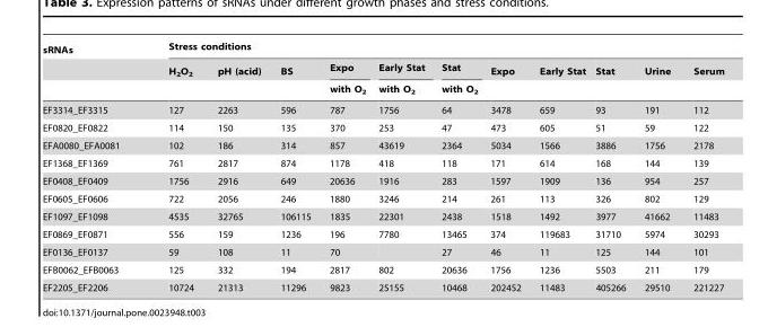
<table><thead><tr><td rowspan="3">sRNAs</td><td colspan="11">Stress conditions</td></tr><tr><td rowspan="2">H<sub>2</sub>O<sub>2</sub></td><td rowspan="2">pH (acid)</td><td rowspan="2">BS</td><td rowspan="2">Expo with O<sub>2</sub></td><td rowspan="2">Early Stat with O<sub>2</sub></td><td rowspan="2">Stat with O<sub>2</sub></td><td rowspan="2">Expo</td><td rowspan="2">Early Stat</td><td rowspan="2">Stat</td><td rowspan="2">Urine</td><td rowspan="2">Serum</td></tr><tr></tr></thead><tbody><tr><td>EF3314_EF3315</td><td>127</td><td>2263</td><td>596</td><td>787</td><td>1756</td><td>64</td><td>3478</td><td>659</td><td>93</td><td>191</td><td>112</td></tr><tr><td>EF0820_EF0822</td><td>114</td><td>150</td><td>135</td><td>370</td><td>253</td><td>47</td><td>473</td><td>605</td><td>51</td><td>59</td><td>122</td></tr><tr><td>EFA0080_EFA0081</td><td>102</td><td>186</td><td>314</td><td>857</td><td>43619</td><td>2364</td><td>5034</td><td>1566</td><td>3886</td><td>1756</td><td>2178</td></tr><tr><td>EF1368_EF1369</td><td>761</td><td>2817</td><td>874</td><td>1178</td><td>418</td><td>118</td><td>171</td><td>614</td><td>168</td><td>144</td><td>139</td></tr><tr><td>EF0408_EF0409</td><td>1756</td><td>2916</td><td>649</td><td>20636</td><td>1916</td><td>283</td><td>1597</td><td>1909</td><td>136</td><td>954</td><td>257</td></tr><tr><td>EF0605_EF0606</td><td>722</td><td>2056</td><td>246</td><td>1880</td><td>3246</td><td>214</td><td>261</td><td>113</td><td>326</td><td>802</td><td>129</td></tr><tr><td>EF1097_EF1098</td><td>4535</td><td>32765</td><td>106115</td><td>1835</td><td>22301</td><td>2438</td><td>1518</td><td>1492</td><td>3977</td><td>41662</td><td>11483</td></tr><tr><td>EF0869_EF0871</td><td>556</td><td>159</td><td>1236</td><td>196</td><td>7780</td><td>13465</td><td>374</td><td>119683</td><td>31710</td><td>5974</td><td>30293</td></tr><tr><td>EF0136_EF0137</td><td>59</td><td>108</td><td>11</td><td>70</td><td></td><td>27</td><td>46</td><td>11</td><td>125</td><td>144</td><td>101</td></tr><tr><td>EFB0062_EFB0063</td><td>125</td><td>332</td><td>194</td><td>2817</td><td>802</td><td>20636</td><td>1756</td><td>1236</td><td>5503</td><td>211</td><td>179</td></tr><tr><td>EF2205_EF2206</td><td>10724</td><td>21313</td><td>11296</td><td>9823</td><td>25155</td><td>10468</td><td>202452</td><td>11483</td><td>405266</td><td>29510</td><td>221227</td></tr></tbody></table>